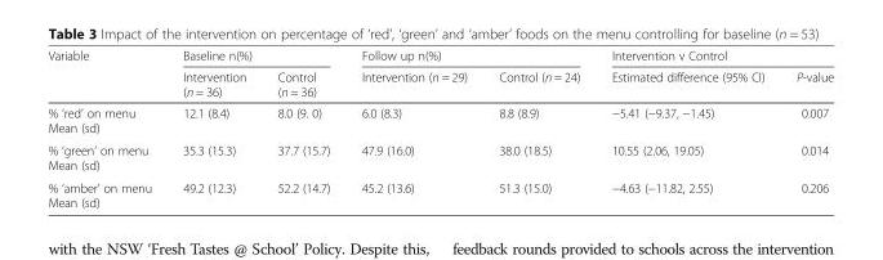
<table><thead><tr><td rowspan="2">Variable</td><td colspan="2">Baseline n(%)</td><td colspan="2">Follow up n(%)</td><td colspan="2">Intervention v Control</td></tr><tr><td>Intervention (n = 36)</td><td>Control (n = 36)</td><td>Intervention (n = 29)</td><td>Control (n = 24)</td><td>Estimated difference (95% CI)</td><td>P-value</td></tr></thead><tbody><tr><td>% ‘red’ on menu Mean (sd)</td><td>12.1 (8.4)</td><td>8.0 (9. 0)</td><td>6.0 (8.3)</td><td>8.8 (8.9)</td><td>−5.41 (−9.37, −1.45)</td><td>0.007</td></tr><tr><td>% ‘green’ on menu Mean (sd)</td><td>35.3 (15.3)</td><td>37.7 (15.7)</td><td>47.9 (16.0)</td><td>38.0 (18.5)</td><td>10.55 (2.06, 19.05)</td><td>0.014</td></tr><tr><td>% ‘amber’ on menu Mean (sd)</td><td>49.2 (12.3)</td><td>52.2 (14.7)</td><td>45.2 (13.6)</td><td>51.3 (15.0)</td><td>−4.63 (−11.82, 2.55)</td><td>0.206</td></tr></tbody></table>